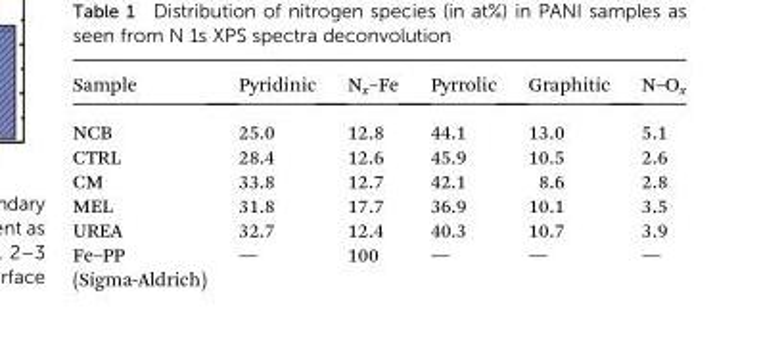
<table><thead><tr><td>Sample</td><td>Pyridinic</td><td>N<sub>x</sub>–Fe</td><td>Pyrrolic</td><td>Graphitic</td><td>N–O<sub>x</sub></td></tr></thead><tbody><tr><td>NCB</td><td>25.0</td><td>12.8</td><td>44.1</td><td>13.0</td><td>5.1</td></tr><tr><td>CTRL</td><td>28.4</td><td>12.6</td><td>45.9</td><td>10.5</td><td>2.6</td></tr><tr><td>CM</td><td>33.8</td><td>12.7</td><td>42.1</td><td>8.6</td><td>2.8</td></tr><tr><td>MEL</td><td>31.8</td><td>17.7</td><td>36.9</td><td>10.1</td><td>3.5</td></tr><tr><td>UREA</td><td>32.7</td><td>12.4</td><td>40.3</td><td>10.7</td><td>3.9</td></tr><tr><td>Fe–PP (Sigma-Aldrich)</td><td>—</td><td>100</td><td>—</td><td>—</td><td>—</td></tr></tbody></table>